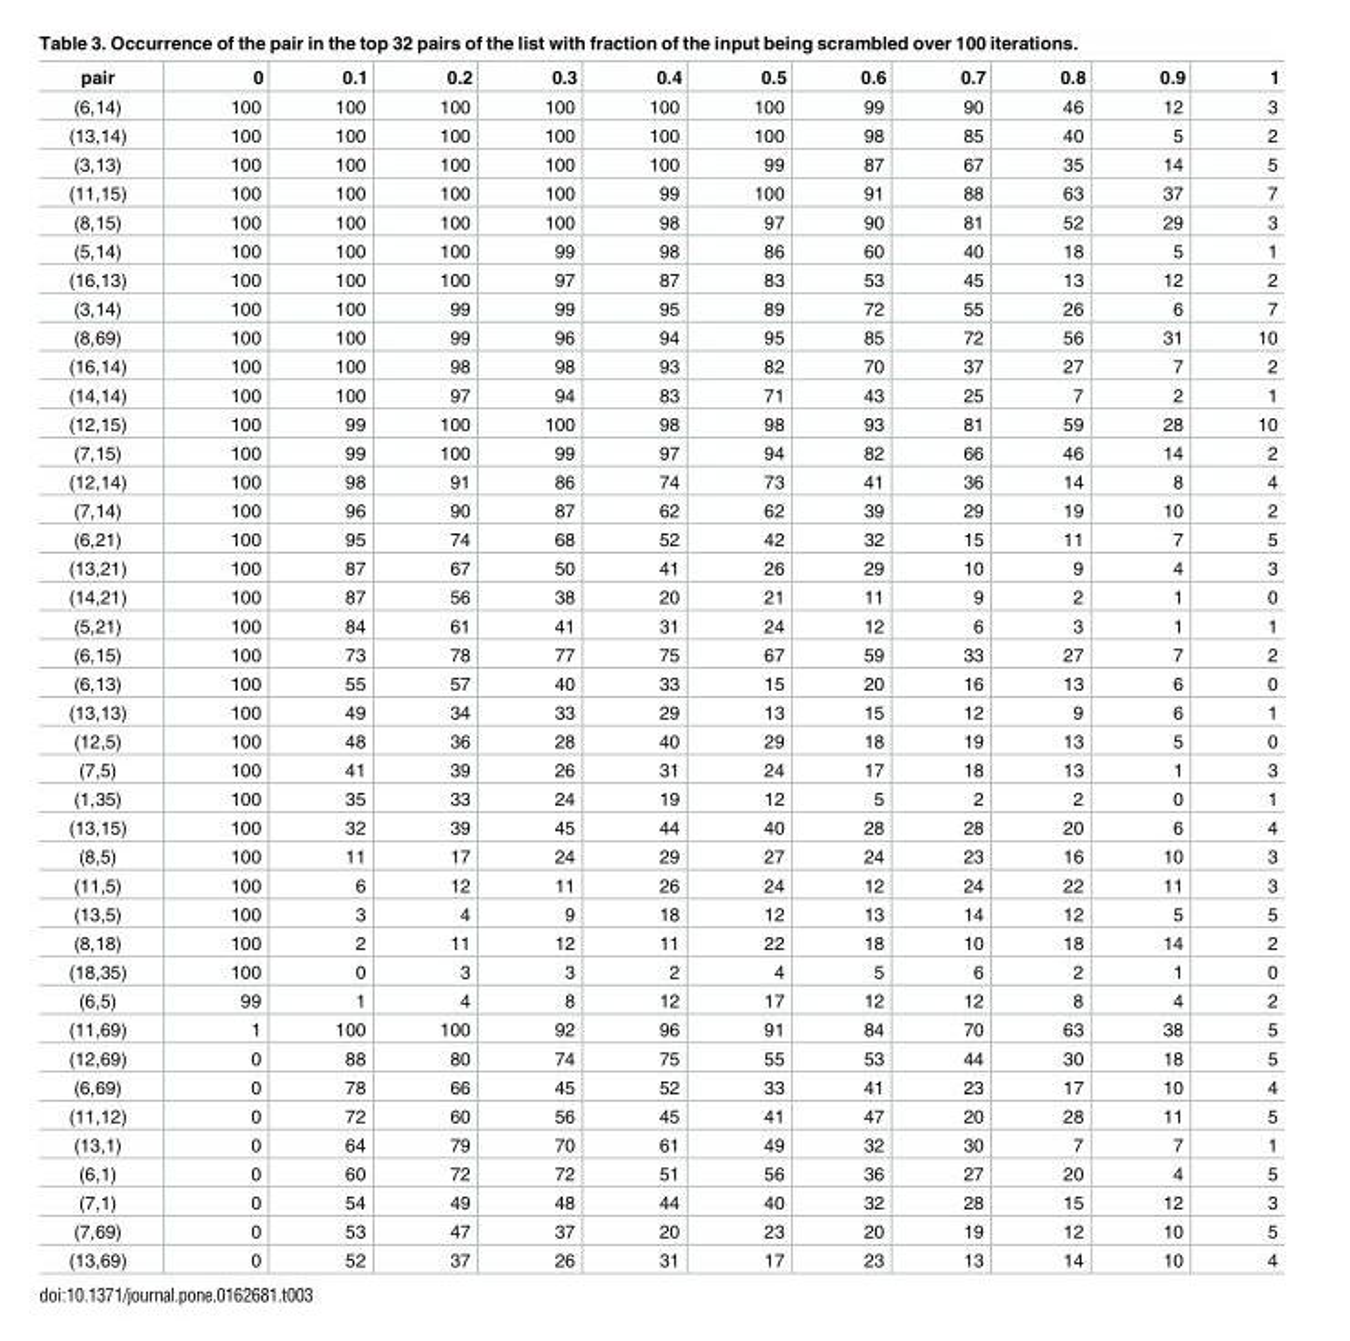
<table><thead><tr><td>pair</td><td>0</td><td>0.1</td><td>0.2</td><td>0.3</td><td>0.4</td><td>0.5</td><td>0.6</td><td>0.7</td><td>0.8</td><td>0.9</td><td>1</td></tr></thead><tbody><tr><td>(6,14)</td><td>100</td><td>100</td><td>100</td><td>100</td><td>100</td><td>100</td><td>99</td><td>90</td><td>46</td><td>12</td><td>3</td></tr><tr><td>(13,14)</td><td>100</td><td>100</td><td>100</td><td>100</td><td>100</td><td>100</td><td>98</td><td>85</td><td>40</td><td>5</td><td>2</td></tr><tr><td>(3,13)</td><td>100</td><td>100</td><td>100</td><td>100</td><td>100</td><td>99</td><td>87</td><td>67</td><td>35</td><td>14</td><td>5</td></tr><tr><td>(11,15)</td><td>100</td><td>100</td><td>100</td><td>100</td><td>99</td><td>100</td><td>91</td><td>88</td><td>63</td><td>37</td><td>7</td></tr><tr><td>(8,15)</td><td>100</td><td>100</td><td>100</td><td>100</td><td>98</td><td>97</td><td>90</td><td>81</td><td>52</td><td>29</td><td>3</td></tr><tr><td>(5,14)</td><td>100</td><td>100</td><td>100</td><td>99</td><td>98</td><td>86</td><td>60</td><td>40</td><td>18</td><td>5</td><td>1</td></tr><tr><td>(16,13)</td><td>100</td><td>100</td><td>100</td><td>97</td><td>87</td><td>83</td><td>53</td><td>45</td><td>13</td><td>12</td><td>2</td></tr><tr><td>(3,14)</td><td>100</td><td>100</td><td>99</td><td>99</td><td>95</td><td>89</td><td>72</td><td>55</td><td>26</td><td>6</td><td>7</td></tr><tr><td>(8,69)</td><td>100</td><td>100</td><td>99</td><td>96</td><td>94</td><td>95</td><td>85</td><td>72</td><td>56</td><td>31</td><td>10</td></tr><tr><td>(16,14)</td><td>100</td><td>100</td><td>98</td><td>98</td><td>93</td><td>82</td><td>70</td><td>37</td><td>27</td><td>7</td><td>2</td></tr><tr><td>(14,14)</td><td>100</td><td>100</td><td>97</td><td>94</td><td>83</td><td>71</td><td>43</td><td>25</td><td>7</td><td>2</td><td>1</td></tr><tr><td>(12,15)</td><td>100</td><td>99</td><td>100</td><td>100</td><td>98</td><td>98</td><td>93</td><td>81</td><td>59</td><td>28</td><td>10</td></tr><tr><td>(7,15)</td><td>100</td><td>99</td><td>100</td><td>99</td><td>97</td><td>94</td><td>82</td><td>66</td><td>46</td><td>14</td><td>2</td></tr><tr><td>(12,14)</td><td>100</td><td>98</td><td>91</td><td>86</td><td>74</td><td>73</td><td>41</td><td>36</td><td>14</td><td>8</td><td>4</td></tr><tr><td>(7,14)</td><td>100</td><td>96</td><td>90</td><td>87</td><td>62</td><td>62</td><td>39</td><td>29</td><td>19</td><td>10</td><td>2</td></tr><tr><td>(6,21)</td><td>100</td><td>95</td><td>74</td><td>68</td><td>52</td><td>42</td><td>32</td><td>15</td><td>11</td><td>7</td><td>5</td></tr><tr><td>(13,21)</td><td>100</td><td>87</td><td>67</td><td>50</td><td>41</td><td>26</td><td>29</td><td>10</td><td>9</td><td>4</td><td>3</td></tr><tr><td>(14,21)</td><td>100</td><td>87</td><td>56</td><td>38</td><td>20</td><td>21</td><td>11</td><td>9</td><td>2</td><td>1</td><td>0</td></tr><tr><td>(5,21)</td><td>100</td><td>84</td><td>61</td><td>41</td><td>31</td><td>24</td><td>12</td><td>6</td><td>3</td><td>1</td><td>1</td></tr><tr><td>(6,15)</td><td>100</td><td>73</td><td>78</td><td>77</td><td>75</td><td>67</td><td>59</td><td>33</td><td>27</td><td>7</td><td>2</td></tr><tr><td>(6,13)</td><td>100</td><td>55</td><td>57</td><td>40</td><td>33</td><td>15</td><td>20</td><td>16</td><td>13</td><td>6</td><td>0</td></tr><tr><td>(13,13)</td><td>100</td><td>49</td><td>34</td><td>33</td><td>29</td><td>13</td><td>15</td><td>12</td><td>9</td><td>6</td><td>1</td></tr><tr><td>(12,5)</td><td>100</td><td>48</td><td>36</td><td>28</td><td>40</td><td>29</td><td>18</td><td>19</td><td>13</td><td>5</td><td>0</td></tr><tr><td>(7,5)</td><td>100</td><td>41</td><td>39</td><td>26</td><td>31</td><td>24</td><td>17</td><td>18</td><td>13</td><td>1</td><td>3</td></tr><tr><td>(1,35)</td><td>100</td><td>35</td><td>33</td><td>24</td><td>19</td><td>12</td><td>5</td><td>2</td><td>2</td><td>0</td><td>1</td></tr><tr><td>(13,15)</td><td>100</td><td>32</td><td>39</td><td>45</td><td>44</td><td>40</td><td>28</td><td>28</td><td>20</td><td>6</td><td>4</td></tr><tr><td>(8,5)</td><td>100</td><td>11</td><td>17</td><td>24</td><td>29</td><td>27</td><td>24</td><td>23</td><td>16</td><td>10</td><td>3</td></tr><tr><td>(11,5)</td><td>100</td><td>6</td><td>12</td><td>11</td><td>26</td><td>24</td><td>12</td><td>24</td><td>22</td><td>11</td><td>3</td></tr><tr><td>(13,5)</td><td>100</td><td>3</td><td>4</td><td>9</td><td>18</td><td>12</td><td>13</td><td>14</td><td>12</td><td>5</td><td>5</td></tr><tr><td>(8,18)</td><td>100</td><td>2</td><td>11</td><td>12</td><td>11</td><td>22</td><td>18</td><td>10</td><td>18</td><td>14</td><td>2</td></tr><tr><td>(18,35)</td><td>100</td><td>0</td><td>3</td><td>3</td><td>2</td><td>4</td><td>5</td><td>6</td><td>2</td><td>1</td><td>0</td></tr><tr><td>(6,5)</td><td>99</td><td>1</td><td>4</td><td>8</td><td>12</td><td>17</td><td>12</td><td>12</td><td>8</td><td>4</td><td>2</td></tr><tr><td>(11,69)</td><td>1</td><td>100</td><td>100</td><td>92</td><td>96</td><td>91</td><td>84</td><td>70</td><td>63</td><td>38</td><td>5</td></tr><tr><td>(12,69)</td><td>0</td><td>88</td><td>80</td><td>74</td><td>75</td><td>55</td><td>53</td><td>44</td><td>30</td><td>18</td><td>5</td></tr><tr><td>(6,69)</td><td>0</td><td>78</td><td>66</td><td>45</td><td>52</td><td>33</td><td>41</td><td>23</td><td>17</td><td>10</td><td>4</td></tr><tr><td>(11,12)</td><td>0</td><td>72</td><td>60</td><td>56</td><td>45</td><td>41</td><td>47</td><td>20</td><td>28</td><td>11</td><td>5</td></tr><tr><td>(13,1)</td><td>0</td><td>64</td><td>79</td><td>70</td><td>61</td><td>49</td><td>32</td><td>30</td><td>7</td><td>7</td><td>1</td></tr><tr><td>(6,1)</td><td>0</td><td>60</td><td>72</td><td>72</td><td>51</td><td>56</td><td>36</td><td>27</td><td>20</td><td>4</td><td>5</td></tr><tr><td>(7,1)</td><td>0</td><td>54</td><td>49</td><td>48</td><td>44</td><td>40</td><td>32</td><td>28</td><td>15</td><td>12</td><td>3</td></tr><tr><td>(7,69)</td><td>0</td><td>53</td><td>47</td><td>37</td><td>20</td><td>23</td><td>20</td><td>19</td><td>12</td><td>10</td><td>5</td></tr><tr><td>(13,69)</td><td>0</td><td>52</td><td>37</td><td>26</td><td>31</td><td>17</td><td>23</td><td>13</td><td>14</td><td>10</td><td>4</td></tr></tbody></table>